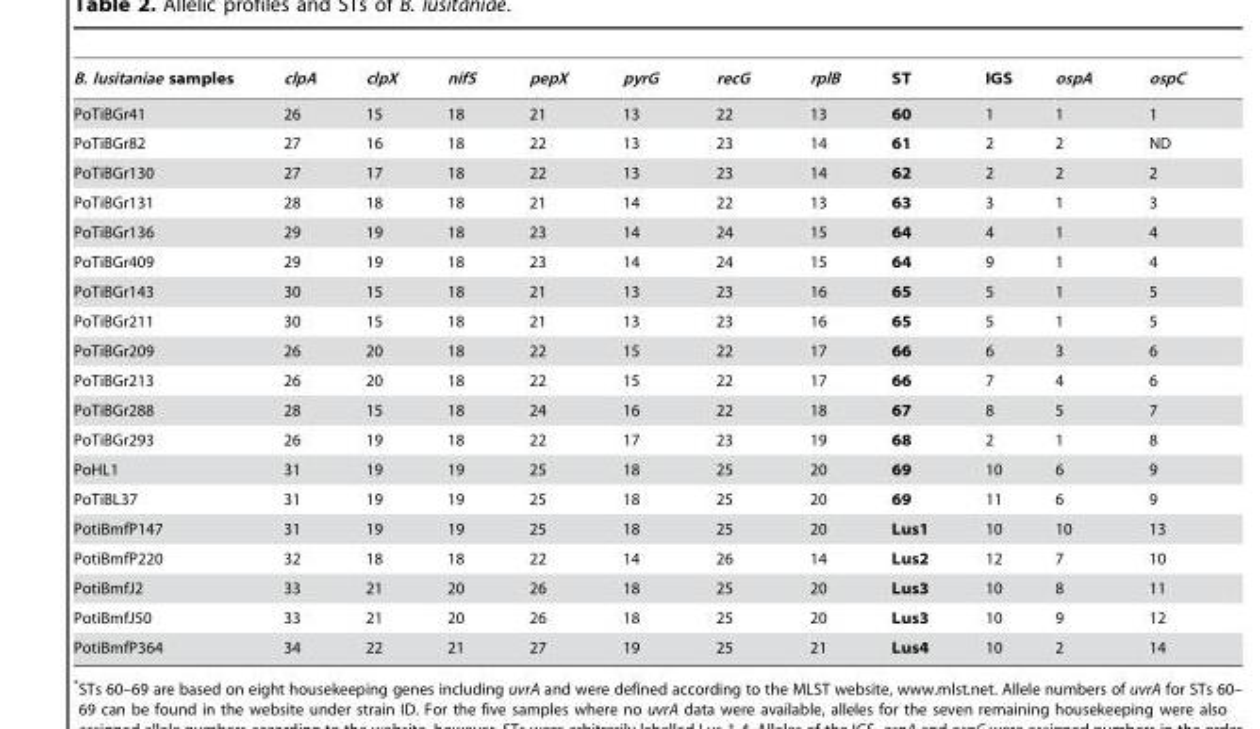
<table><thead><tr><td>B. lusitaniae samples</td><td>clpA</td><td>clpX</td><td>nifS</td><td>pepX</td><td>pyrG</td><td>recG</td><td>rplB</td><td>ST</td><td>IGS</td><td>ospA</td><td>ospC</td></tr></thead><tbody><tr><td>PoTiBGr41</td><td>26</td><td>15</td><td>18</td><td>21</td><td>13</td><td>22</td><td>13</td><td>60</td><td>1</td><td>1</td><td>1</td></tr><tr><td>PoTiBGr82</td><td>27</td><td>16</td><td>18</td><td>22</td><td>13</td><td>23</td><td>14</td><td>61</td><td>2</td><td>2</td><td>ND</td></tr><tr><td>PoTiBGr130</td><td>27</td><td>17</td><td>18</td><td>22</td><td>13</td><td>23</td><td>14</td><td>62</td><td>2</td><td>2</td><td>2</td></tr><tr><td>PoTiBGr131</td><td>28</td><td>18</td><td>18</td><td>21</td><td>14</td><td>22</td><td>13</td><td>63</td><td>3</td><td>1</td><td>3</td></tr><tr><td>PoTiBGr136</td><td>29</td><td>19</td><td>18</td><td>23</td><td>14</td><td>24</td><td>15</td><td>64</td><td>4</td><td>1</td><td>4</td></tr><tr><td>PoTiBGr409</td><td>29</td><td>19</td><td>18</td><td>23</td><td>14</td><td>24</td><td>15</td><td>64</td><td>9</td><td>1</td><td>4</td></tr><tr><td>PoTiBGr143</td><td>30</td><td>15</td><td>18</td><td>21</td><td>13</td><td>23</td><td>16</td><td>65</td><td>5</td><td>1</td><td>5</td></tr><tr><td>PoTiBGr211</td><td>30</td><td>15</td><td>18</td><td>21</td><td>13</td><td>23</td><td>16</td><td>65</td><td>5</td><td>1</td><td>5</td></tr><tr><td>PoTiBGr209</td><td>26</td><td>20</td><td>18</td><td>22</td><td>15</td><td>22</td><td>17</td><td>66</td><td>6</td><td>3</td><td>6</td></tr><tr><td>PoTiBGr213</td><td>26</td><td>20</td><td>18</td><td>22</td><td>15</td><td>22</td><td>17</td><td>66</td><td>7</td><td>4</td><td>6</td></tr><tr><td>PoTiBGr288</td><td>28</td><td>15</td><td>18</td><td>24</td><td>16</td><td>22</td><td>18</td><td>67</td><td>8</td><td>5</td><td>7</td></tr><tr><td>PoTiBGr293</td><td>26</td><td>19</td><td>18</td><td>22</td><td>17</td><td>23</td><td>19</td><td>68</td><td>2</td><td>1</td><td>8</td></tr><tr><td>PoHL1</td><td>31</td><td>19</td><td>19</td><td>25</td><td>18</td><td>25</td><td>20</td><td>69</td><td>10</td><td>6</td><td>9</td></tr><tr><td>PoTiBL37</td><td>31</td><td>19</td><td>19</td><td>25</td><td>18</td><td>25</td><td>20</td><td>69</td><td>11</td><td>6</td><td>9</td></tr><tr><td>PotiBmfP147</td><td>31</td><td>19</td><td>19</td><td>25</td><td>18</td><td>25</td><td>20</td><td>Lus1</td><td>10</td><td>10</td><td>13</td></tr><tr><td>PotiBmfP220</td><td>32</td><td>18</td><td>18</td><td>22</td><td>14</td><td>26</td><td>14</td><td>Lus2</td><td>12</td><td>7</td><td>10</td></tr><tr><td>PotiBmfJ2</td><td>33</td><td>21</td><td>20</td><td>26</td><td>18</td><td>25</td><td>20</td><td>Lus3</td><td>10</td><td>8</td><td>11</td></tr><tr><td>PotiBmfJ50</td><td>33</td><td>21</td><td>20</td><td>26</td><td>18</td><td>25</td><td>20</td><td>Lus3</td><td>10</td><td>9</td><td>12</td></tr><tr><td>PotiBmfP364</td><td>34</td><td>22</td><td>21</td><td>27</td><td>19</td><td>25</td><td>21</td><td>Lus4</td><td>10</td><td>2</td><td>14</td></tr></tbody></table>